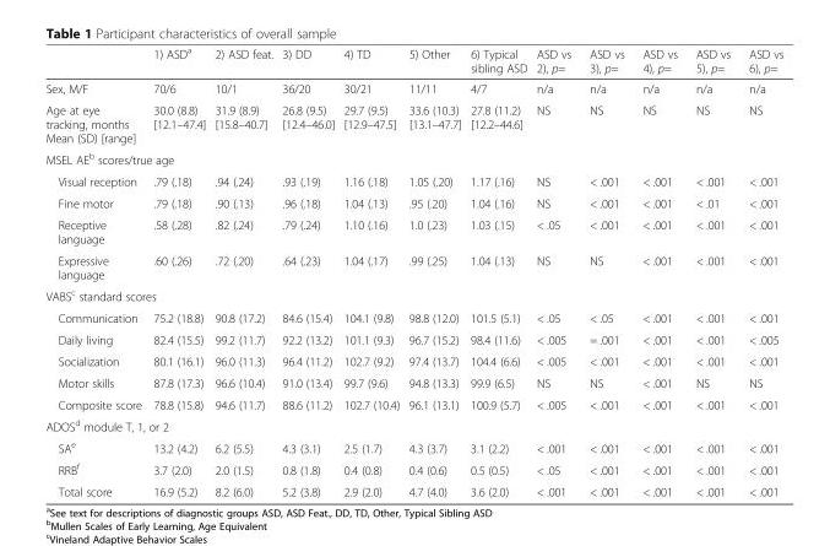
<table><thead><tr><td></td><td>1) ASD<sup>a</sup></td><td>2) ASD feat.</td><td>3) DD</td><td>4) TD</td><td>5) Other</td><td>6) Typical sibling ASD</td><td>ASD vs 2), p=</td><td>ASD vs 3), p=</td><td>ASD vs 4), p=</td><td>ASD vs 5), p=</td><td>ASD vs 6), p=</td></tr></thead><tbody><tr><td>Sex, M/F</td><td>70/6</td><td>10/1</td><td>36/20</td><td>30/21</td><td>11/11</td><td>4/7</td><td>n/a</td><td>n/a</td><td>n/a</td><td>n/a</td><td>n/a</td></tr><tr><td>Age at eye tracking, months Mean (SD) [range]</td><td>30.0 (8.8) [12.1–47.4]</td><td>31.9 (8.9) [15.8–40.7]</td><td>26.8 (9.5) [12.4–46.0]</td><td>29.7 (9.5) [12.9–47.5]</td><td>33.6 (10.3) [13.1–47.7]</td><td>27.8 (11.2) [12.2–44.6]</td><td>NS</td><td>NS</td><td>NS</td><td>NS</td><td>NS</td></tr><tr><td colspan="12">MSEL AE<sup>b</sup> scores/true age</td></tr><tr><td>Visual reception</td><td>.79 (.18)</td><td>.94 (.24)</td><td>.93 (.19)</td><td>1.16 (.18)</td><td>1.05 (.20)</td><td>1.17 (.16)</td><td>NS</td><td>&lt; .001</td><td>&lt; .001</td><td>&lt; .001</td><td>&lt; .001</td></tr><tr><td>Fine motor</td><td>.79 (.18)</td><td>.90 (.13)</td><td>.96 (.18)</td><td>1.04 (.13)</td><td>.95 (.20)</td><td>1.04 (.16)</td><td>NS</td><td>&lt; .001</td><td>&lt; .001</td><td>&lt; .01</td><td>&lt; .001</td></tr><tr><td>Receptive language</td><td>.58 (.28)</td><td>.82 (.24)</td><td>.79 (.24)</td><td>1.10 (.16)</td><td>1.0 (.23)</td><td>1.03 (.15)</td><td>&lt; .05</td><td>&lt; .001</td><td>&lt; .001</td><td>&lt; .001</td><td>&lt; .001</td></tr><tr><td>Expressive language</td><td>.60 (.26)</td><td>.72 (.20)</td><td>.64 (.23)</td><td>1.04 (.17)</td><td>.99 (.25)</td><td>1.04 (.13)</td><td>NS</td><td>NS</td><td>&lt; .001</td><td>&lt; .001</td><td>&lt; .001</td></tr><tr><td colspan="12">VABS<sup>c</sup> standard scores</td></tr><tr><td>Communication</td><td>75.2 (18.8)</td><td>90.8 (17.2)</td><td>84.6 (15.4)</td><td>104.1 (9.8)</td><td>98.8 (12.0)</td><td>101.5 (5.1)</td><td>&lt; .05</td><td>&lt; .05</td><td>&lt; .001</td><td>&lt; .001</td><td>&lt; .001</td></tr><tr><td>Daily living</td><td>82.4 (15.5)</td><td>99.2 (11.7)</td><td>92.2 (13.2)</td><td>101.1 (9.3)</td><td>96.7 (15.2)</td><td>98.4 (11.6)</td><td>&lt; .005</td><td>= .001</td><td>&lt; .001</td><td>&lt; .001</td><td>&lt; .005</td></tr><tr><td>Socialization</td><td>80.1 (16.1)</td><td>96.0 (11.3)</td><td>96.4 (11.2)</td><td>102.7 (9.2)</td><td>97.4 (13.7)</td><td>104.4 (6.6)</td><td>&lt; .005</td><td>&lt; .001</td><td>&lt; .001</td><td>&lt; .001</td><td>&lt; .001</td></tr><tr><td>Motor skills</td><td>87.8 (17.3)</td><td>96.6 (10.4)</td><td>91.0 (13.4)</td><td>99.7 (9.6)</td><td>94.8 (13.3)</td><td>99.9 (6.5)</td><td>NS</td><td>NS</td><td>&lt; .001</td><td>NS</td><td>NS</td></tr><tr><td>Composite score</td><td>78.8 (15.8)</td><td>94.6 (11.7)</td><td>88.6 (11.2)</td><td>102.7 (10.4)</td><td>96.1 (13.1)</td><td>100.9 (5.7)</td><td>&lt; .005</td><td>&lt; .001</td><td>&lt; .001</td><td>&lt; .001</td><td>&lt; .001</td></tr><tr><td colspan="12">ADOS<sup>d</sup> module T, 1, or 2</td></tr><tr><td>SA<sup>e</sup></td><td>13.2 (4.2)</td><td>6.2 (5.5)</td><td>4.3 (3.1)</td><td>2.5 (1.7)</td><td>4.3 (3.7)</td><td>3.1 (2.2)</td><td>&lt; .001</td><td>&lt; .001</td><td>&lt; .001</td><td>&lt; .001</td><td>&lt; .001</td></tr><tr><td>RRB<sup>f</sup></td><td>3.7 (2.0)</td><td>2.0 (1.5)</td><td>0.8 (1.8)</td><td>0.4 (0.8)</td><td>0.4 (0.6)</td><td>0.5 (0.5)</td><td>&lt; .05</td><td>&lt; .001</td><td>&lt; .001</td><td>&lt; .001</td><td>&lt; .001</td></tr><tr><td>Total score</td><td>16.9 (5.2)</td><td>8.2 (6.0)</td><td>5.2 (3.8)</td><td>2.9 (2.0)</td><td>4.7 (4.0)</td><td>3.6 (2.0)</td><td>&lt; .001</td><td>&lt; .001</td><td>&lt; .001</td><td>&lt; .001</td><td>&lt; .001</td></tr></tbody></table>